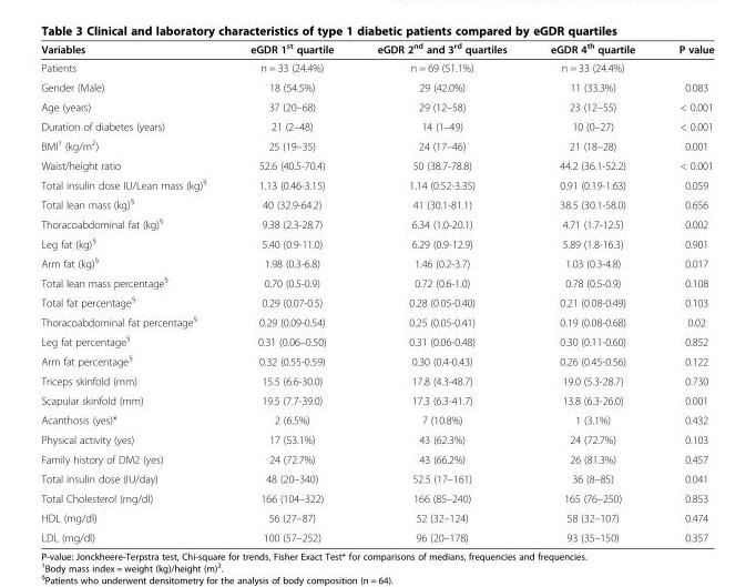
<table><thead><tr><td>Variables</td><td>eGDR 1<sup>st</sup> quartile</td><td>eGDR 2<sup>nd</sup> and 3<sup>rd</sup> quartiles</td><td>eGDR 4<sup>th</sup> quartile</td><td>P value</td></tr></thead><tbody><tr><td>Patients</td><td>n = 33 (24.4%)</td><td>n = 69 (51.1%)</td><td>n = 33 (24.4%)</td><td></td></tr><tr><td>Gender (Male)</td><td>18 (54.5%)</td><td>29 (42.0%)</td><td>11 (33.3%)</td><td>0.083</td></tr><tr><td>Age (years)</td><td>37 (20–68)</td><td>29 (12–58)</td><td>23 (12–55)</td><td>&lt; 0.001</td></tr><tr><td>Duration of diabetes (years)</td><td>21 (2–48)</td><td>14 (1–49)</td><td>10 (0–27)</td><td>&lt; 0.001</td></tr><tr><td>BMI<sup>†</sup> (kg/m<sup>2</sup>)</td><td>25 (19–35)</td><td>24 (17–46)</td><td>21 (18–28)</td><td>0.001</td></tr><tr><td>Waist/height ratio</td><td>52.6 (40.5-70.4)</td><td>50 (38.7-78.8)</td><td>44.2 (36.1-52.2)</td><td>&lt; 0.001</td></tr><tr><td>Total insulin dose IU/Lean mass (kg)<sup>§</sup></td><td>1.13 (0.46-3.15)</td><td>1.14 (0.52-3.35)</td><td>0.91 (0.19-1.63)</td><td>0.059</td></tr><tr><td>Total lean mass (kg)<sup>§</sup></td><td>40 (32.9-64.2)</td><td>41 (30.1-81.1)</td><td>38.5 (30.1-58.0)</td><td>0.656</td></tr><tr><td>Thoracoabdominal fat (kg)<sup>§</sup></td><td>9.38 (2.3-28.7)</td><td>6.34 (1.0-20.1)</td><td>4.71 (1.7-12.5)</td><td>0.002</td></tr><tr><td>Leg fat (kg)<sup>§</sup></td><td>5.40 (0.9-11.0)</td><td>6.29 (0.9-12.9)</td><td>5.89 (1.8-16.3)</td><td>0.901</td></tr><tr><td>Arm fat (kg)<sup>§</sup></td><td>1.98 (0.3-6.8)</td><td>1.46 (0.2-3.7)</td><td>1.03 (0.3-4.8)</td><td>0.017</td></tr><tr><td>Total lean mass percentage<sup>§</sup></td><td>0.70 (0.5-0.9)</td><td>0.72 (0.6-1.0)</td><td>0.78 (0.5-0.9)</td><td>0.108</td></tr><tr><td>Total fat percentage<sup>§</sup></td><td>0.29 (0.07-0.5)</td><td>0.28 (0.05-0.40)</td><td>0.21 (0.08-0.49)</td><td>0.103</td></tr><tr><td>Thoracoabdominal fat percentage<sup>§</sup></td><td>0.29 (0.09-0.54)</td><td>0.25 (0.05-0.41)</td><td>0.19 (0.08-0.68)</td><td>0.02</td></tr><tr><td>Leg fat percentage<sup>§</sup></td><td>0.31 (0.06–0.50)</td><td>0.31 (0.06-0.48)</td><td>0.30 (0.11-0.60)</td><td>0.852</td></tr><tr><td>Arm fat percentage<sup>§</sup></td><td>0.32 (0.55-0.59)</td><td>0.30 (0.4-0.43)</td><td>0.26 (0.45-0.56)</td><td>0.122</td></tr><tr><td>Triceps skinfold (mm)</td><td>15.5 (6.6-30.0)</td><td>17.8 (4.3-48.7)</td><td>19.0 (5.3-28.7)</td><td>0.730</td></tr><tr><td>Scapular skinfold (mm)</td><td>19.5 (7.7-39.0)</td><td>17.3 (6.3-41.7)</td><td>13.8 (6.3-26.0)</td><td>0.001</td></tr><tr><td>Acanthosis (yes)*</td><td>2 (6.5%)</td><td>7 (10.8%)</td><td>1 (3.1%)</td><td>0.432</td></tr><tr><td>Physical activity (yes)</td><td>17 (53.1%)</td><td>43 (62.3%)</td><td>24 (72.7%)</td><td>0.103</td></tr><tr><td>Family history of DM2 (yes)</td><td>24 (72.7%)</td><td>43 (66.2%)</td><td>26 (81.3%)</td><td>0.457</td></tr><tr><td>Total insulin dose (IU/day)</td><td>48 (20–340)</td><td>52.5 (17–161)</td><td>36 (8–85)</td><td>0.041</td></tr><tr><td>Total Cholesterol (mg/dl)</td><td>166 (104–322)</td><td>166 (85–240)</td><td>165 (76–250)</td><td>0.853</td></tr><tr><td>HDL (mg/dl)</td><td>56 (27–87)</td><td>52 (32–124)</td><td>58 (32–107)</td><td>0.474</td></tr><tr><td>LDL (mg/dl)</td><td>100 (57–252)</td><td>96 (20–178)</td><td>93 (35–150)</td><td>0.357</td></tr></tbody></table>